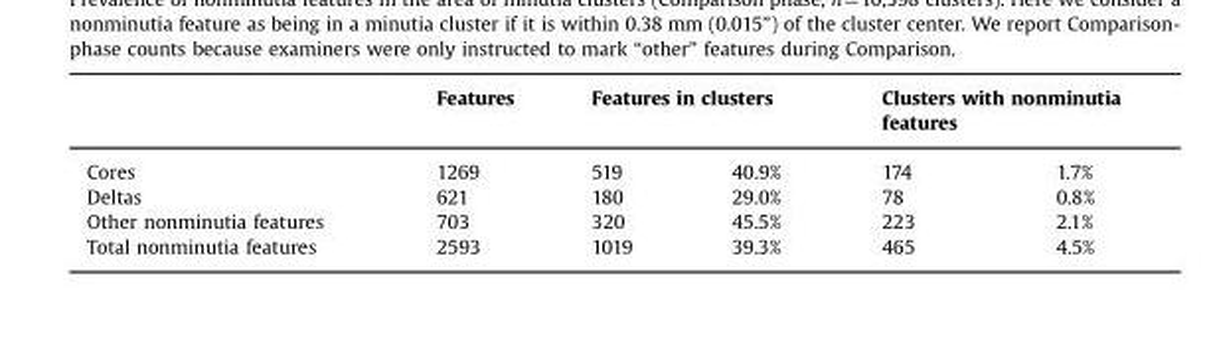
<table><thead><tr><td rowspan="2">Cores</td><td rowspan="2">Features 1269</td><td colspan="2">Features in clusters</td><td colspan="2">Clusters with nonminutia features</td></tr><tr><td>519</td><td>40.9%</td><td>174</td><td>1.7%</td></tr></thead><tbody><tr><td>Deltas</td><td>621</td><td>180</td><td>29.0%</td><td>78</td><td>0.8%</td></tr><tr><td>Other nonminutia features</td><td>703</td><td>320</td><td>45.5%</td><td>223</td><td>2.1%</td></tr><tr><td>Total nonminutia features</td><td>2593</td><td>1019</td><td>39.3%</td><td>465</td><td>4.5%</td></tr></tbody></table>